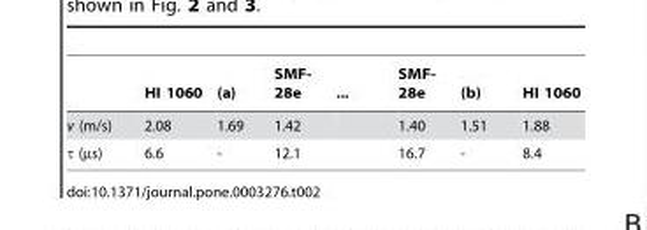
<table><thead><tr><td></td><td>HI 1060</td><td>(a)</td><td>SMF- 28e</td><td>...</td><td>SMF- 28e</td><td>(b)</td><td>HI 1060</td></tr></thead><tbody><tr><td>v (m/s)</td><td>2.08</td><td>1.69</td><td>1.42</td><td></td><td>1.40</td><td>1.51</td><td>1.88</td></tr><tr><td>τ (µs)</td><td>6.6</td><td>-</td><td>12.1</td><td></td><td>16.7</td><td>-</td><td>8.4</td></tr></tbody></table>